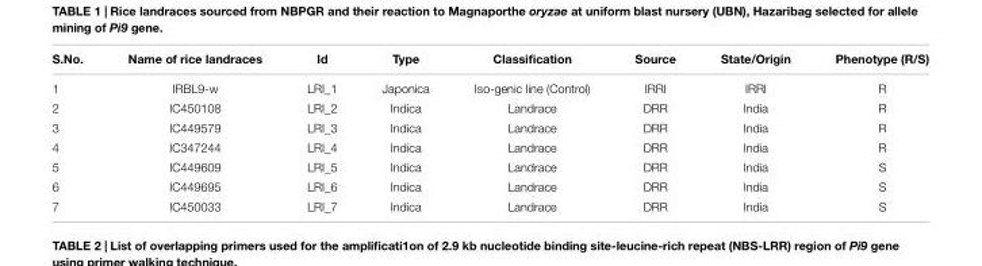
<table><thead><tr><td>S.No.</td><td>Name of rice landraces</td><td>Id</td><td>Type</td><td>Classification</td><td>Source</td><td>State/Origin</td><td>Phenotype (R/S)</td></tr></thead><tbody><tr><td>1</td><td>IRBL9-w</td><td>LRI_1</td><td>Japonica</td><td>Iso-genic line (Control)</td><td>IRRI</td><td>IRRI</td><td>R</td></tr><tr><td>2</td><td>IC450108</td><td>LRI_2</td><td>Indica</td><td>Landrace</td><td>DRR</td><td>India</td><td>R</td></tr><tr><td>3</td><td>IC449579</td><td>LRI_3</td><td>Indica</td><td>Landrace</td><td>DRR</td><td>India</td><td>R</td></tr><tr><td>4</td><td>IC347244</td><td>LRI_4</td><td>Indica</td><td>Landrace</td><td>DRR</td><td>India</td><td>R</td></tr><tr><td>5</td><td>IC449609</td><td>LRI_5</td><td>Indica</td><td>Landrace</td><td>DRR</td><td>India</td><td>S</td></tr><tr><td>6</td><td>IC449695</td><td>LRI_6</td><td>Indica</td><td>Landrace</td><td>DRR</td><td>India</td><td>S</td></tr><tr><td>7</td><td>IC450033</td><td>LRI_7</td><td>Indica</td><td>Landrace</td><td>DRR</td><td>India</td><td>S</td></tr></tbody></table>